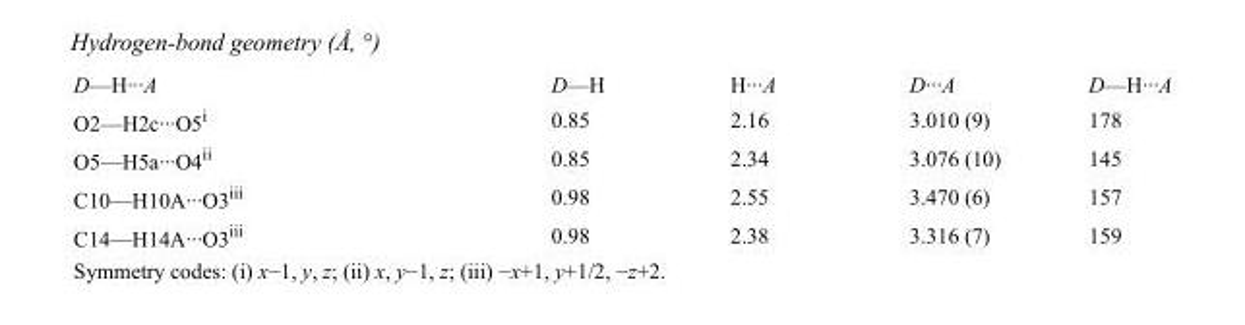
<table><tbody><tr><td>D—H···A</td><td>D—H</td><td>H···A</td><td>D···A</td><td>D—H···A</td></tr><tr><td>O2—H2c···O5<sup>i</sup></td><td>0.85</td><td>2.16</td><td>3.010 (9)</td><td>178</td></tr><tr><td>O5—H5a···O4<sup>ii</sup></td><td>0.85</td><td>2.34</td><td>3.076 (10)</td><td>145</td></tr><tr><td>C10—H10A···O3<sup>iii</sup></td><td>0.98</td><td>2.55</td><td>3.470 (6)</td><td>157</td></tr><tr><td>C14—H14A···O3<sup>iii</sup></td><td>0.98</td><td>2.38</td><td>3.316 (7)</td><td>159</td></tr></tbody></table>